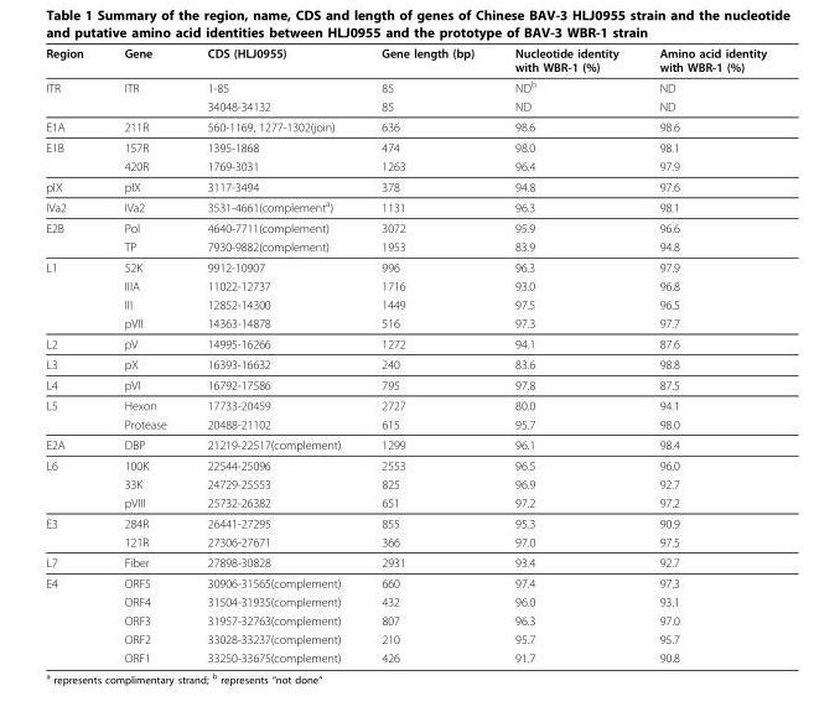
<table><thead><tr><td>Region</td><td>Gene</td><td>CDS (HLJ0955)</td><td>Gene length (bp)</td><td>Nucleotide identity with WBR-1 (%)</td><td>Amino acid identity with WBR-1 (%)</td></tr></thead><tbody><tr><td rowspan="2">ITR</td><td>ITR</td><td>1-85</td><td>85</td><td>ND<sup>b</sup></td><td>ND</td></tr><tr><td></td><td>34048-34132</td><td>85</td><td>ND</td><td>ND</td></tr><tr><td>E1A</td><td>211R</td><td>560-1169, 1277-1302(join)</td><td>636</td><td>98.6</td><td>98.6</td></tr><tr><td rowspan="2">E1B</td><td>157R</td><td>1395-1868</td><td>474</td><td>98.0</td><td>98.1</td></tr><tr><td>420R</td><td>1769-3031</td><td>1263</td><td>96.4</td><td>97.9</td></tr><tr><td>pIX</td><td>pIX</td><td>3117-3494</td><td>378</td><td>94.8</td><td>97.6</td></tr><tr><td>IVa2</td><td>IVa2</td><td>3531-4661(complement<sup>a</sup>)</td><td>1131</td><td>96.3</td><td>98.1</td></tr><tr><td rowspan="2">E2B</td><td>Pol</td><td>4640-7711(complement)</td><td>3072</td><td>95.9</td><td>96.6</td></tr><tr><td>TP</td><td>7930-9882(complement)</td><td>1953</td><td>83.9</td><td>94.8</td></tr><tr><td rowspan="4">L1</td><td>52K</td><td>9912-10907</td><td>996</td><td>96.3</td><td>97.9</td></tr><tr><td>IIIA</td><td>11022-12737</td><td>1716</td><td>93.0</td><td>96.8</td></tr><tr><td>III</td><td>12852-14300</td><td>1449</td><td>97.5</td><td>96.5</td></tr><tr><td>pVII</td><td>14363-14878</td><td>516</td><td>97.3</td><td>97.7</td></tr><tr><td>L2</td><td>pV</td><td>14995-16266</td><td>1272</td><td>94.1</td><td>87.6</td></tr><tr><td>L3</td><td>pX</td><td>16393-16632</td><td>240</td><td>83.6</td><td>98.8</td></tr><tr><td>L4</td><td>pVI</td><td>16792-17586</td><td>795</td><td>97.8</td><td>87.5</td></tr><tr><td rowspan="2">L5</td><td>Hexon</td><td>17733-20459</td><td>2727</td><td>80.0</td><td>94.1</td></tr><tr><td>Protease</td><td>20488-21102</td><td>615</td><td>95.7</td><td>98.0</td></tr><tr><td>E2A</td><td>DBP</td><td>21219-22517(complement)</td><td>1299</td><td>96.1</td><td>98.4</td></tr><tr><td rowspan="3">L6</td><td>100K</td><td>22544-25096</td><td>2553</td><td>96.5</td><td>96.0</td></tr><tr><td>33K</td><td>24729-25553</td><td>825</td><td>96.9</td><td>92.7</td></tr><tr><td>pVIII</td><td>25732-26382</td><td>651</td><td>97.2</td><td>97.2</td></tr><tr><td rowspan="2">E3</td><td>284R</td><td>26441-27295</td><td>855</td><td>95.3</td><td>90.9</td></tr><tr><td>121R</td><td>27306-27671</td><td>366</td><td>97.0</td><td>97.5</td></tr><tr><td>L7</td><td>Fiber</td><td>27898-30828</td><td>2931</td><td>93.4</td><td>92.7</td></tr><tr><td rowspan="5">E4</td><td>ORF5</td><td>30906-31565(complement)</td><td>660</td><td>97.4</td><td>97.3</td></tr><tr><td>ORF4</td><td>31504-31935(complement)</td><td>432</td><td>96.0</td><td>93.1</td></tr><tr><td>ORF3</td><td>31957-32763(complement)</td><td>807</td><td>96.3</td><td>97.0</td></tr><tr><td>ORF2</td><td>33028-33237(complement)</td><td>210</td><td>95.7</td><td>95.7</td></tr><tr><td>ORF1</td><td>33250-33675(complement)</td><td>426</td><td>91.7</td><td>90.8</td></tr></tbody></table>